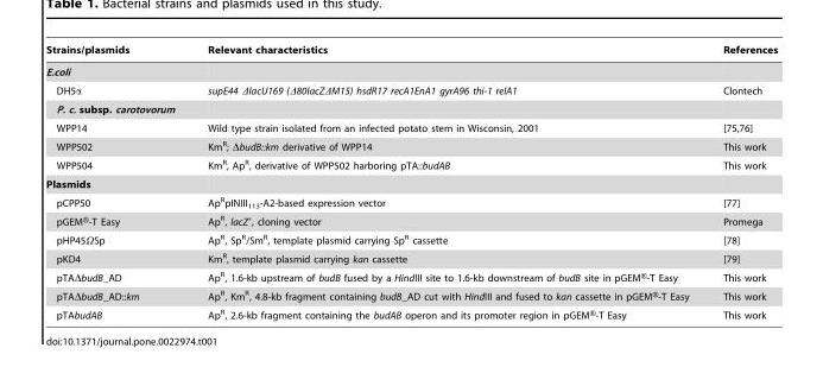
<table><thead><tr><td>Strains/plasmids</td><td>Relevant characteristics</td><td>References</td></tr></thead><tbody><tr><td colspan="3">E.coli</td></tr><tr><td>DH5α</td><td>supE44 ΔlacU169 (Δ80lacZΔM15) hsdR17 recA1EnA1 gyrA96 thi-1 relA1</td><td>Clontech</td></tr><tr><td colspan="3">P. c. subsp. carotovorum</td></tr><tr><td>WPP14</td><td>Wild type strain isolated from an infected potato stem in Wisconsin, 2001</td><td>[75,76]</td></tr><tr><td>WPP502</td><td>Km<sup>R</sup>; ΔbudB::km derivative of WPP14</td><td>This work</td></tr><tr><td>WPP504</td><td>Km<sup>R</sup>, Ap<sup>R</sup>, derivative of WPP502 harboring pTA::budAB</td><td>This work</td></tr><tr><td colspan="3">Plasmids</td></tr><tr><td>pCPP50</td><td>Ap<sup>R</sup>pINIII<sub>113</sub>-A2-based expression vector</td><td>[77]</td></tr><tr><td>pGEM®-T Easy</td><td>Ap<sup>R</sup>, lacZ′, cloning vector</td><td>Promega</td></tr><tr><td>pHP45ΩSp</td><td>Ap<sup>R</sup>, Sp<sup>R</sup>/Sm<sup>R</sup>, template plasmid carrying Sp<sup>R</sup> cassette</td><td>[78]</td></tr><tr><td>pKD4</td><td>Km<sup>R</sup>, template plasmid carrying kan cassette</td><td>[79]</td></tr><tr><td>pTAΔbudB_AD</td><td>Ap<sup>R</sup>, 1.6-kb upstream of budB fused by a HindIII site to 1.6-kb downstream of budB site in pGEM®-T Easy</td><td>This work</td></tr><tr><td>pTAΔbudB_AD::km</td><td>Ap<sup>R</sup>, Km<sup>R</sup>, 4.8-kb fragment containing budB_AD cut with HindIII and fused to kan cassette in pGEM®-T Easy</td><td>This work</td></tr><tr><td>pTAbudAB</td><td>Ap<sup>R</sup>, 2.6-kb fragment containing the budAB operon and its promoter region in pGEM®-T Easy</td><td>This work</td></tr></tbody></table>